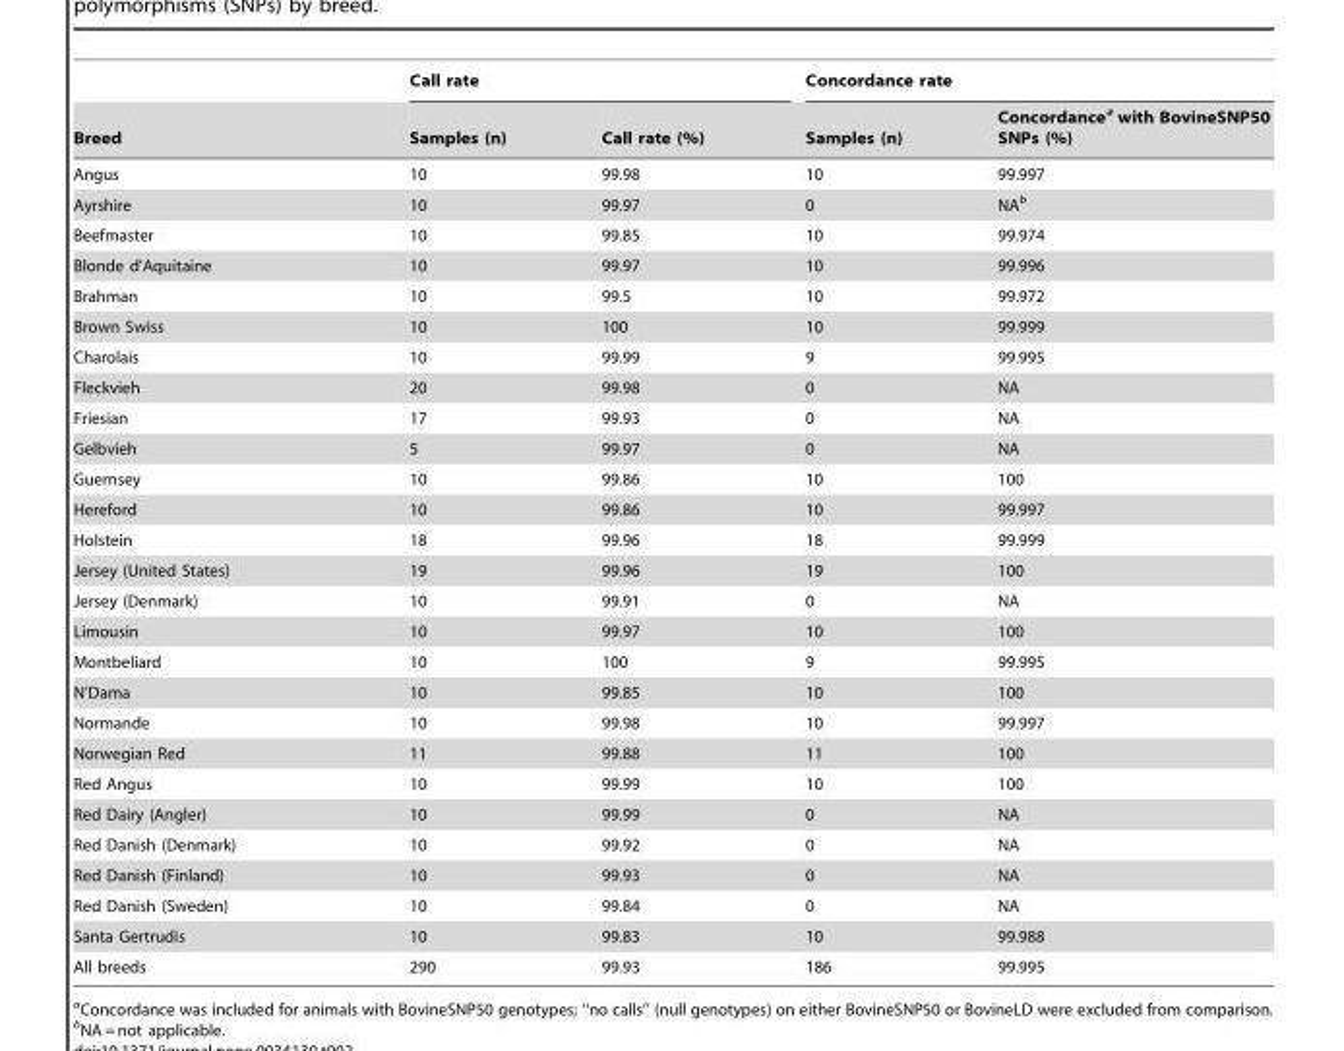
<table><thead><tr><td rowspan="2">Breed</td><td colspan="2">Call rate</td><td colspan="2">Concordance rate</td></tr><tr><td>Samples (n)</td><td>Call rate (%)</td><td>Samples (n)</td><td>Concordance<sup>a</sup> with BovineSNP50 SNPs (%)</td></tr></thead><tbody><tr><td>Angus</td><td>10</td><td>99.98</td><td>10</td><td>99.997</td></tr><tr><td>Ayrshire</td><td>10</td><td>99.97</td><td>0</td><td>NA<sup>b</sup></td></tr><tr><td>Beefmaster</td><td>10</td><td>99.85</td><td>10</td><td>99.974</td></tr><tr><td>Blonde d’Aquitaine</td><td>10</td><td>99.97</td><td>10</td><td>99.996</td></tr><tr><td>Brahman</td><td>10</td><td>99.5</td><td>10</td><td>99.972</td></tr><tr><td>Brown Swiss</td><td>10</td><td>100</td><td>10</td><td>99.999</td></tr><tr><td>Charolais</td><td>10</td><td>99.99</td><td>9</td><td>99.995</td></tr><tr><td>Fleckvieh</td><td>20</td><td>99.98</td><td>0</td><td>NA</td></tr><tr><td>Friesian</td><td>17</td><td>99.93</td><td>0</td><td>NA</td></tr><tr><td>Gelbvieh</td><td>5</td><td>99.97</td><td>0</td><td>NA</td></tr><tr><td>Guernsey</td><td>10</td><td>99.86</td><td>10</td><td>100</td></tr><tr><td>Hereford</td><td>10</td><td>99.86</td><td>10</td><td>99.997</td></tr><tr><td>Holstein</td><td>18</td><td>99.96</td><td>18</td><td>99.999</td></tr><tr><td>Jersey (United States)</td><td>19</td><td>99.96</td><td>19</td><td>100</td></tr><tr><td>Jersey (Denmark)</td><td>10</td><td>99.91</td><td>0</td><td>NA</td></tr><tr><td>Limousin</td><td>10</td><td>99.97</td><td>10</td><td>100</td></tr><tr><td>Montbeliard</td><td>10</td><td>100</td><td>9</td><td>99.995</td></tr><tr><td>N’Dama</td><td>10</td><td>99.85</td><td>10</td><td>100</td></tr><tr><td>Normande</td><td>10</td><td>99.98</td><td>10</td><td>99.997</td></tr><tr><td>Norwegian Red</td><td>11</td><td>99.88</td><td>11</td><td>100</td></tr><tr><td>Red Angus</td><td>10</td><td>99.99</td><td>10</td><td>100</td></tr><tr><td>Red Dairy (Angler)</td><td>10</td><td>99.99</td><td>0</td><td>NA</td></tr><tr><td>Red Danish (Denmark)</td><td>10</td><td>99.92</td><td>0</td><td>NA</td></tr><tr><td>Red Danish (Finland)</td><td>10</td><td>99.93</td><td>0</td><td>NA</td></tr><tr><td>Red Danish (Sweden)</td><td>10</td><td>99.84</td><td>0</td><td>NA</td></tr><tr><td>Santa Gertrudis</td><td>10</td><td>99.83</td><td>10</td><td>99.988</td></tr><tr><td>All breeds</td><td>290</td><td>99.93</td><td>186</td><td>99.995</td></tr></tbody></table>